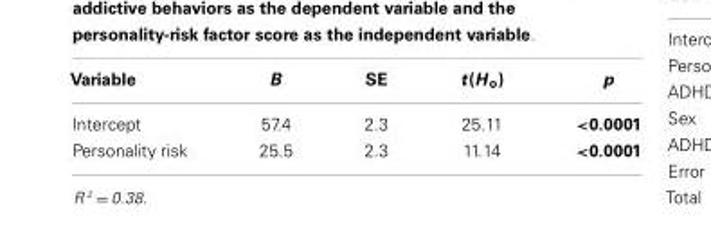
<table><thead><tr><td>Variable</td><td>B</td><td>SE</td><td>t(H<sub>o</sub>)</td><td>p</td></tr></thead><tbody><tr><td>Intercept</td><td>57.4</td><td>2.3</td><td>25.11</td><td>&lt;0.0001</td></tr><tr><td>Personality risk</td><td>25.5</td><td>2.3</td><td>11.14</td><td>&lt;0.0001</td></tr></tbody></table>